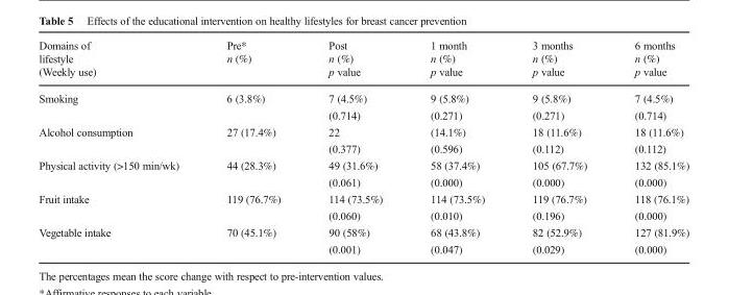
<table><thead><tr><td>Domains of lifestyle (Weekly use)</td><td>Pre* n (%)</td><td>Post n (%) p value</td><td>1 month n (%) p value</td><td>3 months n (%) p value</td><td>6 months n (%) p value</td></tr></thead><tbody><tr><td rowspan="2">Smoking</td><td>6 (3.8%)</td><td>7 (4.5%)</td><td>9 (5.8%)</td><td>9 (5.8%)</td><td>7 (4.5%)</td></tr><tr><td></td><td>(0.714)</td><td>(0.271)</td><td>(0.271)</td><td>(0.714)</td></tr><tr><td rowspan="2">Alcohol consumption</td><td>27 (17.4%)</td><td>22</td><td>(14.1%)</td><td>18 (11.6%)</td><td>18 (11.6%)</td></tr><tr><td></td><td>(0.377)</td><td>(0.596)</td><td>(0.112)</td><td>(0.112)</td></tr><tr><td rowspan="2">Physical activity (&gt;150 min/wk)</td><td>44 (28.3%)</td><td>49 (31.6%)</td><td>58 (37.4%)</td><td>105 (67.7%)</td><td>132 (85.1%)</td></tr><tr><td></td><td>(0.061)</td><td>(0.000)</td><td>(0.000)</td><td>(0.000)</td></tr><tr><td rowspan="2">Fruit intake</td><td>119 (76.7%)</td><td>114 (73.5%)</td><td>114 (73.5%)</td><td>119 (76.7%)</td><td>118 (76.1%)</td></tr><tr><td></td><td>(0.060)</td><td>(0.010)</td><td>(0.196)</td><td>(0.000)</td></tr><tr><td rowspan="2">Vegetable intake</td><td>70 (45.1%)</td><td>90 (58%)</td><td>68 (43.8%)</td><td>82 (52.9%)</td><td>127 (81.9%)</td></tr><tr><td></td><td>(0.001)</td><td>(0.047)</td><td>(0.029)</td><td>(0.000)</td></tr></tbody></table>